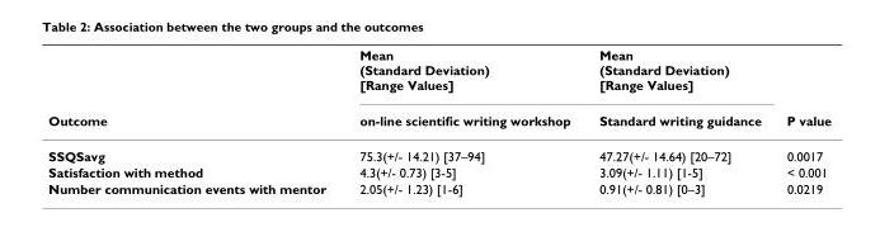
<table><thead><tr><td rowspan="2">Outcome</td><td rowspan="2">Mean (Standard Deviation) [Range Values] on-line scientific writing workshop</td><td rowspan="2">Mean (Standard Deviation) [Range Values] Standard writing guidance</td><td rowspan="2">P value</td></tr><tr></tr></thead><tbody><tr><td>SSQSavg</td><td>75.3(+/- 14.21) [37–94]</td><td>47.27(+/- 14.64) [20–72]</td><td>0.0017</td></tr><tr><td>Satisfaction with method</td><td>4.3(+/- 0.73) [3-5]</td><td>3.09(+/- 1.11) [1-5]</td><td>&lt; 0.001</td></tr><tr><td>Number communication events with mentor</td><td>2.05(+/- 1.23) [1-6]</td><td>0.91(+/- 0.81) [0–3]</td><td>0.0219</td></tr></tbody></table>